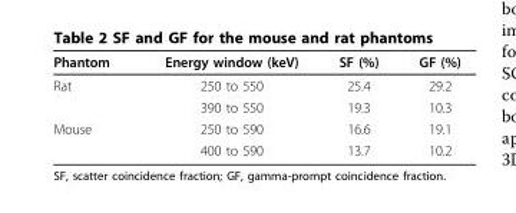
<table><thead><tr><td>Phantom</td><td>Energy window (keV)</td><td>SF (%)</td><td>GF (%)</td></tr></thead><tbody><tr><td rowspan="2">Rat</td><td>250 to 550</td><td>25.4</td><td>29.2</td></tr><tr><td>390 to 550</td><td>19.3</td><td>10.3</td></tr><tr><td rowspan="2">Mouse</td><td>250 to 590</td><td>16.6</td><td>19.1</td></tr><tr><td>400 to 590</td><td>13.7</td><td>10.2</td></tr></tbody></table>